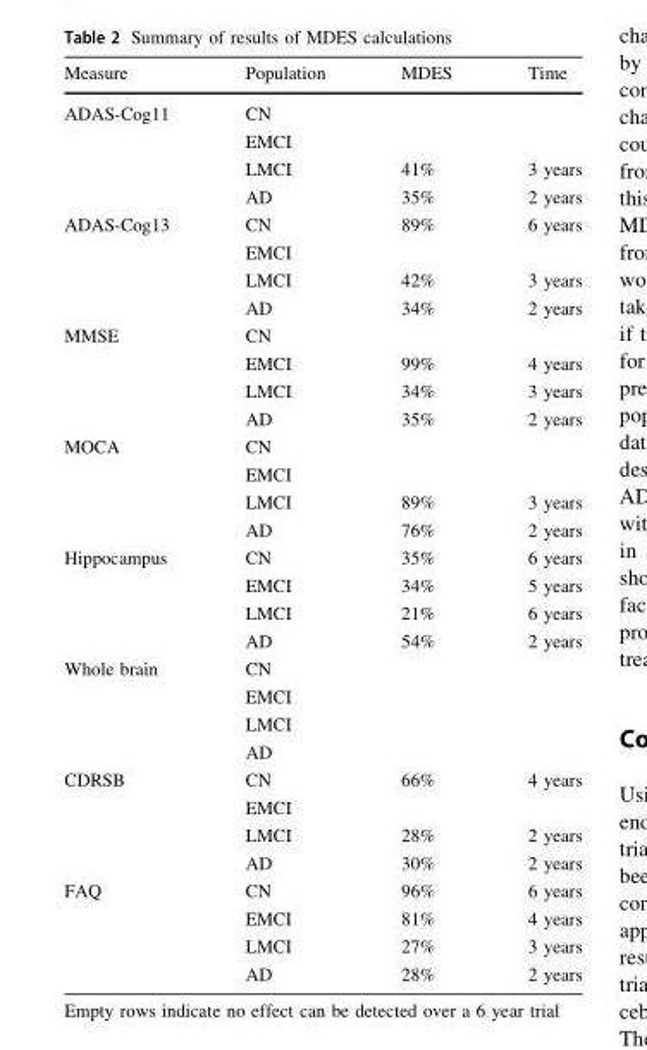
<table><thead><tr><td>Measure</td><td>Population</td><td>MDES</td><td>Time</td></tr></thead><tbody><tr><td rowspan="4">ADAS-Cog11</td><td>CN</td><td></td><td></td></tr><tr><td>EMCI</td><td></td><td></td></tr><tr><td>LMCI</td><td>41%</td><td>3 years</td></tr><tr><td>AD</td><td>35%</td><td>2 years</td></tr><tr><td rowspan="4">ADAS-Cog13</td><td>CN</td><td>89%</td><td>6 years</td></tr><tr><td>EMCI</td><td></td><td></td></tr><tr><td>LMCI</td><td>42%</td><td>3 years</td></tr><tr><td>AD</td><td>34%</td><td>2 years</td></tr><tr><td rowspan="4">MMSE</td><td>CN</td><td></td><td></td></tr><tr><td>EMCI</td><td>99%</td><td>4 years</td></tr><tr><td>LMCI</td><td>34%</td><td>3 years</td></tr><tr><td>AD</td><td>35%</td><td>2 years</td></tr><tr><td rowspan="4">MOCA</td><td>CN</td><td></td><td></td></tr><tr><td>EMCI</td><td></td><td></td></tr><tr><td>LMCI</td><td>89%</td><td>3 years</td></tr><tr><td>AD</td><td>76%</td><td>2 years</td></tr><tr><td rowspan="4">Hippocampus</td><td>CN</td><td>35%</td><td>6 years</td></tr><tr><td>EMCI</td><td>34%</td><td>5 years</td></tr><tr><td>LMCI</td><td>21%</td><td>6 years</td></tr><tr><td>AD</td><td>54%</td><td>2 years</td></tr><tr><td rowspan="4">Whole brain</td><td>CN</td><td></td><td></td></tr><tr><td>EMCI</td><td></td><td></td></tr><tr><td>LMCI</td><td></td><td></td></tr><tr><td>AD</td><td></td><td></td></tr><tr><td rowspan="4">CDRSB</td><td>CN</td><td>66%</td><td>4 years</td></tr><tr><td>EMCI</td><td></td><td></td></tr><tr><td>LMCI</td><td>28%</td><td>2 years</td></tr><tr><td>AD</td><td>30%</td><td>2 years</td></tr><tr><td rowspan="4">FAQ</td><td>CN</td><td>96%</td><td>6 years</td></tr><tr><td>EMCI</td><td>81%</td><td>4 years</td></tr><tr><td>LMCI</td><td>27%</td><td>3 years</td></tr><tr><td>AD</td><td>28%</td><td>2 years</td></tr></tbody></table>